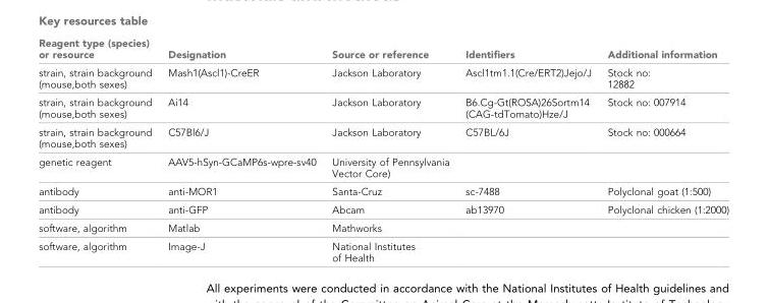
<table><thead><tr><td>Reagent type (species) or resource</td><td>Designation</td><td>Source or reference</td><td>Identifiers</td><td>Additional information</td></tr></thead><tbody><tr><td>strain, strain background (mouse,both sexes)</td><td>Mash1(Ascl1)-CreER</td><td>Jackson Laboratory</td><td>Ascl1tm1.1(Cre/ERT2)Jejo/J</td><td>Stock no: 12882</td></tr><tr><td>strain, strain background (mouse,both sexes)</td><td>Ai14</td><td>Jackson Laboratory</td><td>B6.Cg-Gt(ROSA)26Sortm14 (CAG-tdTomato)Hze/J</td><td>Stock no: 007914</td></tr><tr><td>strain, strain background (mouse,both sexes)</td><td>C57Bl6/J</td><td>Jackson Laboratory</td><td>C57BL/6J</td><td>Stock no: 000664</td></tr><tr><td>genetic reagent</td><td>AAV5-hSyn-GCaMP6s-wpre-sv40</td><td>University of Pennsylvania Vector Core)</td><td></td><td></td></tr><tr><td>antibody</td><td>anti-MOR1</td><td>Santa-Cruz</td><td>sc-7488</td><td>Polyclonal goat (1:500)</td></tr><tr><td>antibody</td><td>anti-GFP</td><td>Abcam</td><td>ab13970</td><td>Polyclonal chicken (1:2000)</td></tr><tr><td>software, algorithm</td><td>Matlab</td><td>Mathworks</td><td></td><td></td></tr><tr><td>software, algorithm</td><td>Image-J</td><td>National Institutes of Health</td><td></td><td></td></tr></tbody></table>